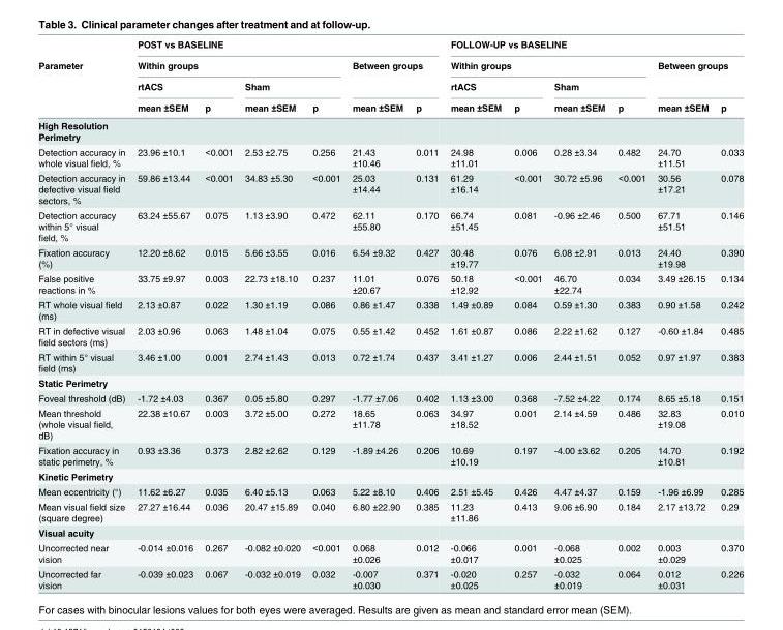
<table><thead><tr><td rowspan="4">Parameter</td><td colspan="6">POST vs BASELINE</td><td colspan="6">FOLLOW-UP vs BASELINE</td></tr><tr><td colspan="4">Within groups</td><td rowspan="2" colspan="2">Between groups</td><td colspan="4">Within groups</td><td rowspan="2" colspan="2">Between groups</td></tr><tr><td colspan="2">rtACS</td><td colspan="2">Sham</td><td colspan="2">rtACS</td><td colspan="2">Sham</td></tr><tr><td>mean ±SEM</td><td>p</td><td>mean ±SEM</td><td>p</td><td>mean ±SEM</td><td>p</td><td>mean ±SEM</td><td>p</td><td>mean ±SEM</td><td>p</td><td>mean ±SEM</td><td>p</td></tr></thead><tbody><tr><td colspan="13">High Resolution Perimetry</td></tr><tr><td>Detection accuracy in whole visual field, %</td><td>23.96 ±10.1</td><td>&lt;0.001</td><td>2.53 ±2.75</td><td>0.256</td><td>21.43 ±10.46</td><td>0.011</td><td>24.98 ±11.01</td><td>0.006</td><td>0.28 ±3.34</td><td>0.482</td><td>24.70 ±11.51</td><td>0.033</td></tr><tr><td>Detection accuracy in defective visual field sectors, %</td><td>59.86 ±13.44</td><td>&lt;0.001</td><td>34.83 ±5.30</td><td>&lt;0.001</td><td>25.03 ±14.44</td><td>0.131</td><td>61.29 ±16.14</td><td>&lt;0.001</td><td>30.72 ±5.96</td><td>&lt;0.001</td><td>30.56 ±17.21</td><td>0.078</td></tr><tr><td>Detection accuracy within 5° visual field, %</td><td>63.24 ±55.67</td><td>0.075</td><td>1.13 ±3.90</td><td>0.472</td><td>62.11 ±55.80</td><td>0.170</td><td>66.74 ±51.45</td><td>0.081</td><td>-0.96 ±2.46</td><td>0.500</td><td>67.71 ±51.51</td><td>0.146</td></tr><tr><td>Fixation accuracy (%)</td><td>12.20 ±8.62</td><td>0.015</td><td>5.66 ±3.55</td><td>0.016</td><td>6.54 ±9.32</td><td>0.427</td><td>30.48 ±19.77</td><td>0.076</td><td>6.08 ±2.91</td><td>0.013</td><td>24.40 ±19.98</td><td>0.390</td></tr><tr><td>False positive reactions in %</td><td>33.75 ±9.97</td><td>0.003</td><td>22.73 ±18.10</td><td>0.237</td><td>11.01 ±20.67</td><td>0.076</td><td>50.18 ±12.92</td><td>&lt;0.001</td><td>46.70 ±22.74</td><td>0.034</td><td>3.49 ±26.15</td><td>0.134</td></tr><tr><td>RT whole visual field (ms)</td><td>2.13 ±0.87</td><td>0.022</td><td>1.30 ±1.19</td><td>0.086</td><td>0.86 ±1.47</td><td>0.338</td><td>1.49 ±0.89</td><td>0.084</td><td>0.59 ±1.30</td><td>0.383</td><td>0.90 ±1.58</td><td>0.242</td></tr><tr><td>RT in defective visual field sectors (ms)</td><td>2.03 ±0.96</td><td>0.063</td><td>1.48 ±1.04</td><td>0.075</td><td>0.55 ±1.42</td><td>0.452</td><td>1.61 ±0.87</td><td>0.086</td><td>2.22 ±1.62</td><td>0.127</td><td>-0.60 ±1.84</td><td>0.485</td></tr><tr><td>RT within 5° visual field (ms)</td><td>3.46 ±1.00</td><td>0.001</td><td>2.74 ±1.43</td><td>0.013</td><td>0.72 ±1.74</td><td>0.437</td><td>3.41 ±1.27</td><td>0.006</td><td>2.44 ±1.51</td><td>0.052</td><td>0.97 ±1.97</td><td>0.383</td></tr><tr><td colspan="13">Static Perimetry</td></tr><tr><td>Foveal threshold (dB)</td><td>-1.72 ±4.03</td><td>0.367</td><td>0.05 ±5.80</td><td>0.297</td><td>-1.77 ±7.06</td><td>0.402</td><td>1.13 ±3.00</td><td>0.368</td><td>-7.52 ±4.22</td><td>0.174</td><td>8.65 ±5.18</td><td>0.151</td></tr><tr><td>Mean threshold (whole visual field, dB)</td><td>22.38 ±10.67</td><td>0.003</td><td>3.72 ±5.00</td><td>0.272</td><td>18.65 ±11.78</td><td>0.063</td><td>34.97 ±18.52</td><td>0.001</td><td>2.14 ±4.59</td><td>0.486</td><td>32.83 ±19.08</td><td>0.010</td></tr><tr><td>Fixation accuracy in static perimetry, %</td><td>0.93 ±3.36</td><td>0.373</td><td>2.82 ±2.62</td><td>0.129</td><td>-1.89 ±4.26</td><td>0.206</td><td>10.69 ±10.19</td><td>0.197</td><td>-4.00 ±3.62</td><td>0.205</td><td>14.70 ±10.81</td><td>0.192</td></tr><tr><td colspan="13">Kinetic Perimetry</td></tr><tr><td>Mean eccentricity (°)</td><td>11.62 ±6.27</td><td>0.035</td><td>6.40 ±5.13</td><td>0.063</td><td>5.22 ±8.10</td><td>0.406</td><td>2.51 ±5.45</td><td>0.426</td><td>4.47 ±4.37</td><td>0.159</td><td>-1.96 ±6.99</td><td>0.285</td></tr><tr><td>Mean visual field size (square degree)</td><td>27.27 ±16.44</td><td>0.036</td><td>20.47 ±15.89</td><td>0.040</td><td>6.80 ±22.90</td><td>0.385</td><td>11.23 ±11.86</td><td>0.413</td><td>9.06 ±6.90</td><td>0.184</td><td>2.17 ±13.72</td><td>0.29</td></tr><tr><td colspan="13">Visual acuity</td></tr><tr><td>Uncorrected near vision</td><td>-0.014 ±0.016</td><td>0.267</td><td>-0.082 ±0.020</td><td>&lt;0.001</td><td>0.068 ±0.026</td><td>0.012</td><td>-0.066 ±0.017</td><td>0.001</td><td>-0.068 ±0.025</td><td>0.002</td><td>0.003 ±0.029</td><td>0.370</td></tr><tr><td>Uncorrected far vision</td><td>-0.039 ±0.023</td><td>0.067</td><td>-0.032 ±0.019</td><td>0.032</td><td>-0.007 ±0.030</td><td>0.371</td><td>-0.020 ±0.025</td><td>0.257</td><td>-0.032 ±0.019</td><td>0.064</td><td>0.012 ±0.031</td><td>0.226</td></tr></tbody></table>